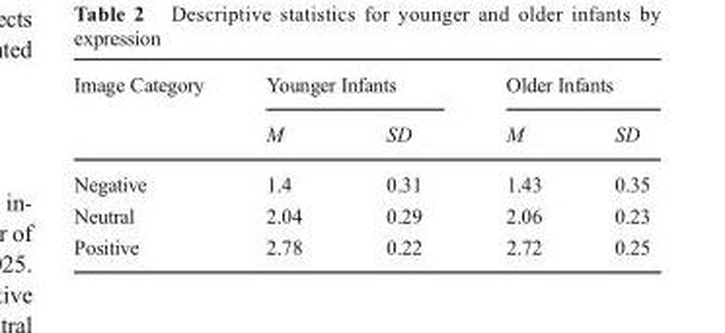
<table><thead><tr><td rowspan="2">Image Category</td><td colspan="2">Younger Infants</td><td colspan="2">Older Infants</td></tr><tr><td>M</td><td>SD</td><td>M</td><td>SD</td></tr></thead><tbody><tr><td>Negative</td><td>1.4</td><td>0.31</td><td>1.43</td><td>0.35</td></tr><tr><td>Neutral</td><td>2.04</td><td>0.29</td><td>2.06</td><td>0.23</td></tr><tr><td>Positive</td><td>2.78</td><td>0.22</td><td>2.72</td><td>0.25</td></tr></tbody></table>